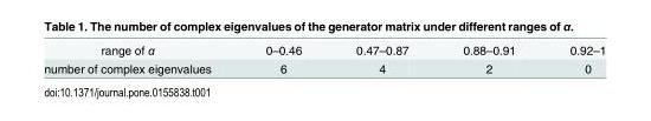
<table><tbody><tr><td>range of α</td><td>0–0.46</td><td>0.47–0.87</td><td>0.88–0.91</td><td>0.92–1</td></tr><tr><td>number of complex eigenvalues</td><td>6</td><td>4</td><td>2</td><td>0</td></tr></tbody></table>